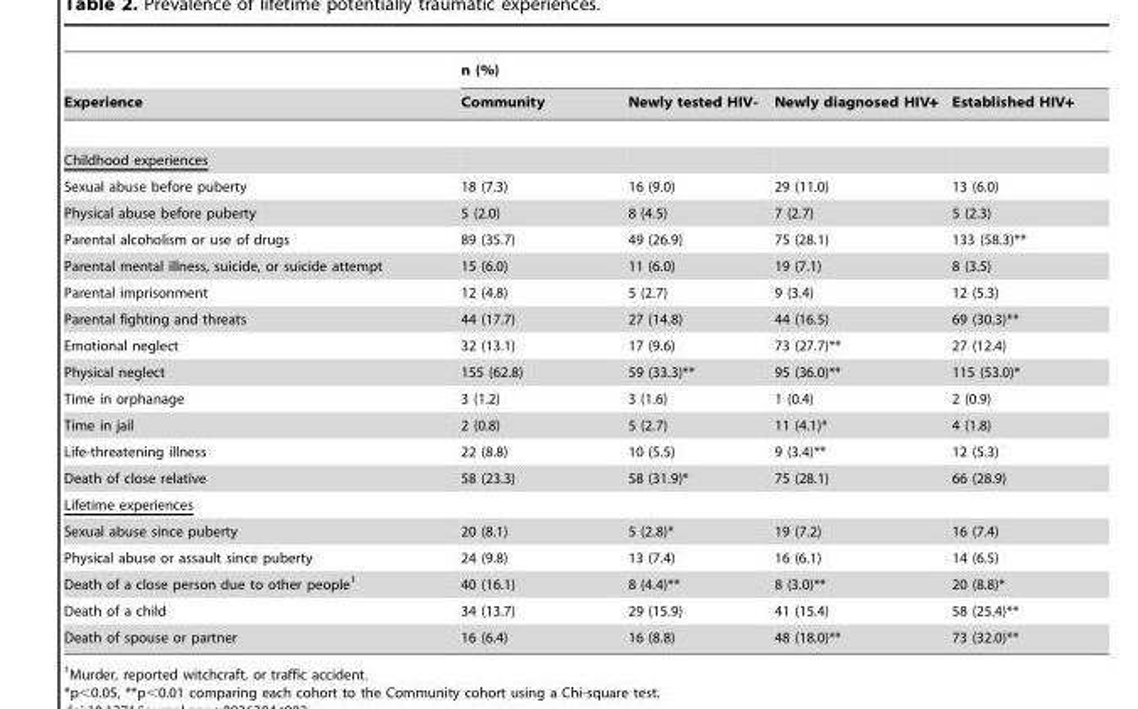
<table><thead><tr><td rowspan="2">Experience</td><td colspan="4">n (%)</td></tr><tr><td>Community</td><td>Newly tested HIV-</td><td>Newly diagnosed HIV+</td><td>Established HIV+</td></tr></thead><tbody><tr><td colspan="5">Childhood experiences</td></tr><tr><td>Sexual abuse before puberty</td><td>18 (7.3)</td><td>16 (9.0)</td><td>29 (11.0)</td><td>13 (6.0)</td></tr><tr><td>Physical abuse before puberty</td><td>5 (2.0)</td><td>8 (4.5)</td><td>7 (2.7)</td><td>5 (2.3)</td></tr><tr><td>Parental alcoholism or use of drugs</td><td>89 (35.7)</td><td>49 (26.9)</td><td>75 (28.1)</td><td>133 (58.3)**</td></tr><tr><td>Parental mental illness, suicide, or suicide attempt</td><td>15 (6.0)</td><td>11 (6.0)</td><td>19 (7.1)</td><td>8 (3.5)</td></tr><tr><td>Parental imprisonment</td><td>12 (4.8)</td><td>5 (2.7)</td><td>9 (3.4)</td><td>12 (5.3)</td></tr><tr><td>Parental fighting and threats</td><td>44 (17.7)</td><td>27 (14.8)</td><td>44 (16.5)</td><td>69 (30.3)**</td></tr><tr><td>Emotional neglect</td><td>32 (13.1)</td><td>17 (9.6)</td><td>73 (27.7)**</td><td>27 (12.4)</td></tr><tr><td>Physical neglect</td><td>155 (62.8)</td><td>59 (33.3)**</td><td>95 (36.0)**</td><td>115 (53.0)*</td></tr><tr><td>Time in orphanage</td><td>3 (1.2)</td><td>3 (1.6)</td><td>1 (0.4)</td><td>2 (0.9)</td></tr><tr><td>Time in jail</td><td>2 (0.8)</td><td>5 (2.7)</td><td>11 (4.1)*</td><td>4 (1.8)</td></tr><tr><td>Life-threatening illness</td><td>22 (8.8)</td><td>10 (5.5)</td><td>9 (3.4)**</td><td>12 (5.3)</td></tr><tr><td>Death of close relative</td><td>58 (23.3)</td><td>58 (31.9)*</td><td>75 (28.1)</td><td>66 (28.9)</td></tr><tr><td colspan="5">Lifetime experiences</td></tr><tr><td>Sexual abuse since puberty</td><td>20 (8.1)</td><td>5 (2.8)*</td><td>19 (7.2)</td><td>16 (7.4)</td></tr><tr><td>Physical abuse or assault since puberty</td><td>24 (9.8)</td><td>13 (7.4)</td><td>16 (6.1)</td><td>14 (6.5)</td></tr><tr><td>Death of a close person due to other people<sup>1</sup></td><td>40 (16.1)</td><td>8 (4.4)**</td><td>8 (3.0)**</td><td>20 (8.8)*</td></tr><tr><td>Death of a child</td><td>34 (13.7)</td><td>29 (15.9)</td><td>41 (15.4)</td><td>58 (25.4)**</td></tr><tr><td>Death of spouse or partner</td><td>16 (6.4)</td><td>16 (8.8)</td><td>48 (18.0)**</td><td>73 (32.0)**</td></tr></tbody></table>